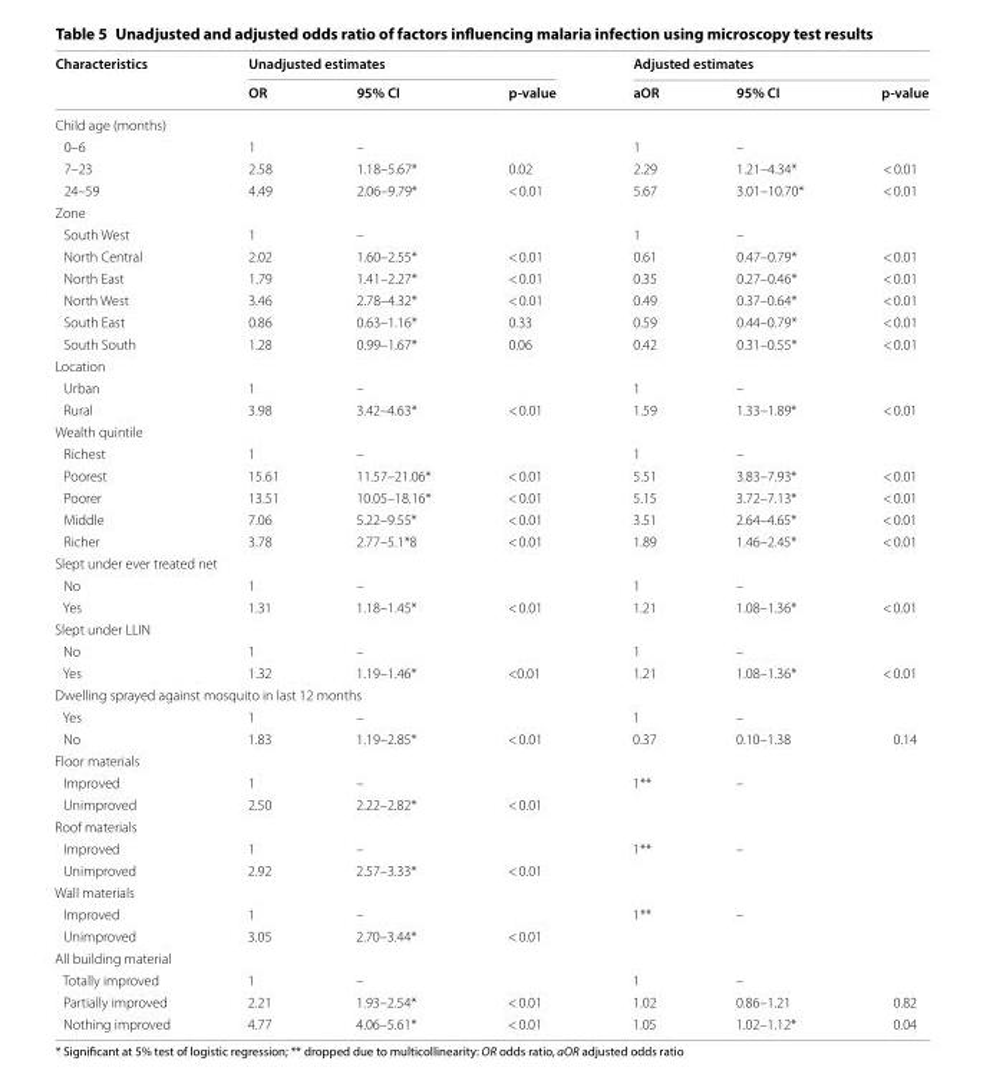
<table><thead><tr><td rowspan="2">Characteristics</td><td colspan="3">Unadjusted estimates</td><td colspan="3">Adjusted estimates</td></tr><tr><td>OR</td><td>95% CI</td><td>p-value</td><td>aOR</td><td>95% CI</td><td>p-value</td></tr></thead><tbody><tr><td colspan="7">Child age (months)</td></tr><tr><td>0–6</td><td>1</td><td>–</td><td></td><td>1</td><td>–</td><td></td></tr><tr><td>7–23</td><td>2.58</td><td>1.18–5.67*</td><td>0.02</td><td>2.29</td><td>1.21–4.34*</td><td>&lt; 0.01</td></tr><tr><td>24–59</td><td>4.49</td><td>2.06–9.79*</td><td>&lt; 0.01</td><td>5.67</td><td>3.01–10.70*</td><td>&lt; 0.01</td></tr><tr><td colspan="7">Zone</td></tr><tr><td>South West</td><td>1</td><td>–</td><td></td><td>1</td><td>–</td><td></td></tr><tr><td>North Central</td><td>2.02</td><td>1.60–2.55*</td><td>&lt; 0.01</td><td>0.61</td><td>0.47–0.79*</td><td>&lt; 0.01</td></tr><tr><td>North East</td><td>1.79</td><td>1.41–2.27*</td><td>&lt; 0.01</td><td>0.35</td><td>0.27–0.46*</td><td>&lt; 0.01</td></tr><tr><td>North West</td><td>3.46</td><td>2.78–4.32*</td><td>&lt; 0.01</td><td>0.49</td><td>0.37–0.64*</td><td>&lt; 0.01</td></tr><tr><td>South East</td><td>0.86</td><td>0.63–1.16*</td><td>0.33</td><td>0.59</td><td>0.44–0.79*</td><td>&lt; 0.01</td></tr><tr><td>South South</td><td>1.28</td><td>0.99–1.67*</td><td>0.06</td><td>0.42</td><td>0.31–0.55*</td><td>&lt; 0.01</td></tr><tr><td colspan="7">Location</td></tr><tr><td>Urban</td><td>1</td><td>–</td><td></td><td>1</td><td>–</td><td></td></tr><tr><td>Rural</td><td>3.98</td><td>3.42–4.63*</td><td>&lt; 0.01</td><td>1.59</td><td>1.33–1.89*</td><td>&lt; 0.01</td></tr><tr><td colspan="7">Wealth quintile</td></tr><tr><td>Richest</td><td>1</td><td>–</td><td></td><td>1</td><td>–</td><td></td></tr><tr><td>Poorest</td><td>15.61</td><td>11.57–21.06*</td><td>&lt; 0.01</td><td>5.51</td><td>3.83–7.93*</td><td>&lt; 0.01</td></tr><tr><td>Poorer</td><td>13.51</td><td>10.05–18.16*</td><td>&lt; 0.01</td><td>5.15</td><td>3.72–7.13*</td><td>&lt; 0.01</td></tr><tr><td>Middle</td><td>7.06</td><td>5.22–9.55*</td><td>&lt; 0.01</td><td>3.51</td><td>2.64–4.65*</td><td>&lt; 0.01</td></tr><tr><td>Richer</td><td>3.78</td><td>2.77–5.1*8</td><td>&lt; 0.01</td><td>1.89</td><td>1.46–2.45*</td><td>&lt; 0.01</td></tr><tr><td colspan="7">Slept under ever treated net</td></tr><tr><td>No</td><td>1</td><td>–</td><td></td><td>1</td><td>–</td><td></td></tr><tr><td>Yes</td><td>1.31</td><td>1.18–1.45*</td><td>&lt; 0.01</td><td>1.21</td><td>1.08–1.36*</td><td>&lt; 0.01</td></tr><tr><td colspan="7">Slept under LLIN</td></tr><tr><td>No</td><td>1</td><td>–</td><td></td><td>1</td><td>–</td><td></td></tr><tr><td>Yes</td><td>1.32</td><td>1.19–1.46*</td><td>&lt;0.01</td><td>1.21</td><td>1.08–1.36*</td><td>&lt; 0.01</td></tr><tr><td colspan="7">Dwelling sprayed against mosquito in last 12 months</td></tr><tr><td>Yes</td><td>1</td><td>–</td><td></td><td>1</td><td>–</td><td></td></tr><tr><td>No</td><td>1.83</td><td>1.19–2.85*</td><td>&lt; 0.01</td><td>0.37</td><td>0.10–1.38</td><td>0.14</td></tr><tr><td colspan="7">Floor materials</td></tr><tr><td>Improved</td><td>1</td><td>–</td><td></td><td>1**</td><td>–</td><td></td></tr><tr><td>Unimproved</td><td>2.50</td><td>2.22–2.82*</td><td>&lt; 0.01</td><td></td><td></td><td></td></tr><tr><td colspan="7">Roof materials</td></tr><tr><td>Improved</td><td>1</td><td>–</td><td></td><td>1**</td><td>–</td><td></td></tr><tr><td>Unimproved</td><td>2.92</td><td>2.57–3.33*</td><td>&lt; 0.01</td><td></td><td></td><td></td></tr><tr><td colspan="7">Wall materials</td></tr><tr><td>Improved</td><td>1</td><td>–</td><td></td><td>1**</td><td>–</td><td></td></tr><tr><td>Unimproved</td><td>3.05</td><td>2.70–3.44*</td><td>&lt; 0.01</td><td></td><td></td><td></td></tr><tr><td colspan="7">All building material</td></tr><tr><td>Totally improved</td><td>1</td><td>–</td><td></td><td>1</td><td>–</td><td></td></tr><tr><td>Partially improved</td><td>2.21</td><td>1.93–2.54*</td><td>&lt; 0.01</td><td>1.02</td><td>0.86–1.21</td><td>0.82</td></tr><tr><td>Nothing improved</td><td>4.77</td><td>4.06–5.61*</td><td>&lt; 0.01</td><td>1.05</td><td>1.02–1.12*</td><td>0.04</td></tr></tbody></table>